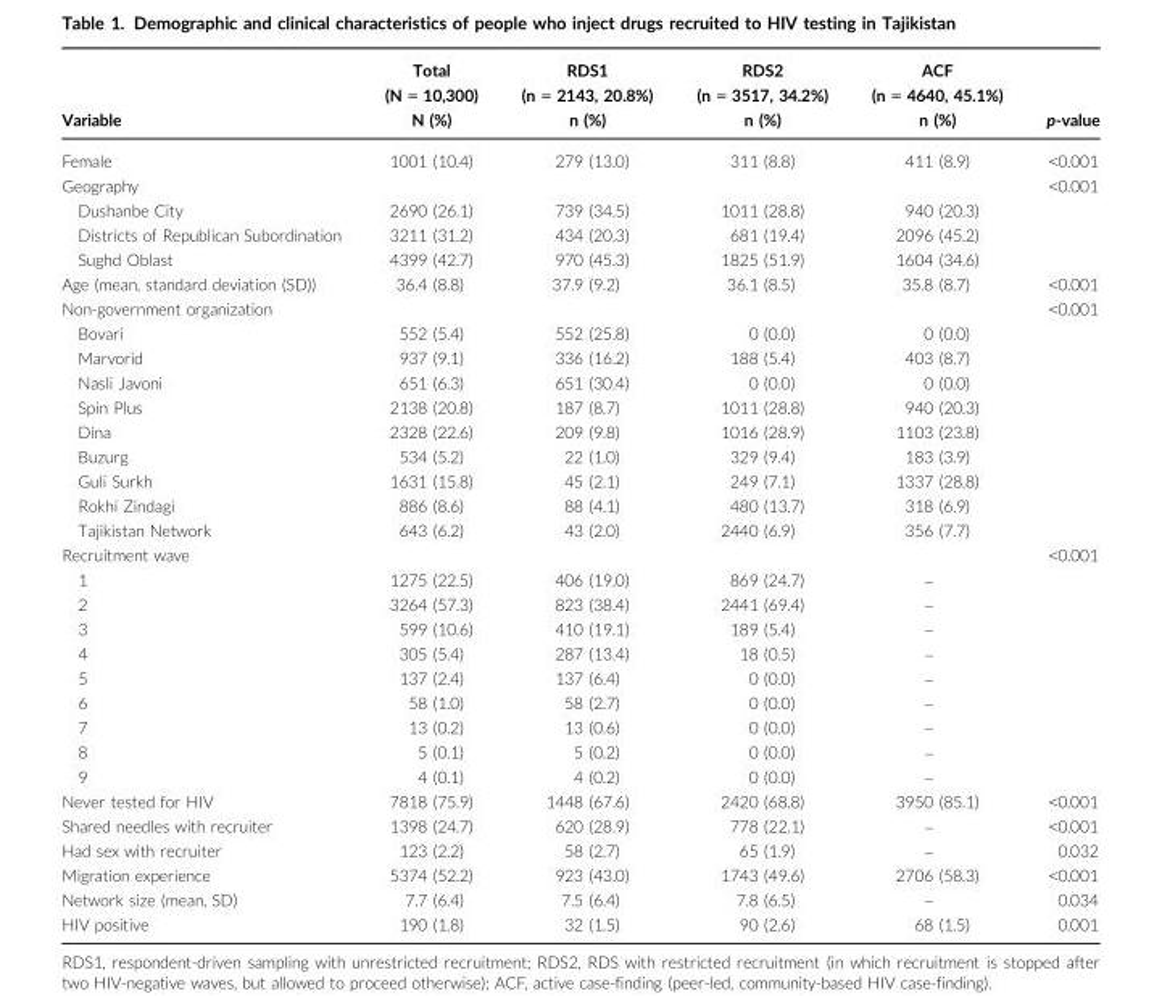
<table><thead><tr><td rowspan="2">Variable</td><td rowspan="2">Total (N = 10,300) N (%)</td><td rowspan="2">RDS1 (n = 2143, 20.8%) n (%)</td><td rowspan="2">RDS2 (n = 3517, 34.2%) n (%)</td><td rowspan="2">ACF (n = 4640, 45.1%) n (%)</td><td rowspan="2">p-value</td></tr><tr></tr></thead><tbody><tr><td>Female</td><td>1001 (10.4)</td><td>279 (13.0)</td><td>311 (8.8)</td><td>411 (8.9)</td><td>&lt;0.001</td></tr><tr><td colspan="5">Geography</td><td rowspan="4">&lt;0.001</td></tr><tr><td>Dushanbe City</td><td>2690 (26.1)</td><td>739 (34.5)</td><td>1011 (28.8)</td><td>940 (20.3)</td></tr><tr><td>Districts of Republican Subordination</td><td>3211 (31.2)</td><td>434 (20.3)</td><td>681 (19.4)</td><td>2096 (45.2)</td></tr><tr><td>Sughd Oblast</td><td>4399 (42.7)</td><td>970 (45.3)</td><td>1825 (51.9)</td><td>1604 (34.6)</td></tr><tr><td>Age (mean, standard deviation (SD))</td><td>36.4 (8.8)</td><td>37.9 (9.2)</td><td>36.1 (8.5)</td><td>35.8 (8.7)</td><td>&lt;0.001</td></tr><tr><td colspan="5">Non-government organization</td><td rowspan="10">&lt;0.001</td></tr><tr><td>Bovari</td><td>552 (5.4)</td><td>552 (25.8)</td><td>0 (0.0)</td><td>0 (0.0)</td></tr><tr><td>Marvorid</td><td>937 (9.1)</td><td>336 (16.2)</td><td>188 (5.4)</td><td>403 (8.7)</td></tr><tr><td>Nasli Javoni</td><td>651 (6.3)</td><td>651 (30.4)</td><td>0 (0.0)</td><td>0 (0.0)</td></tr><tr><td>Spin Plus</td><td>2138 (20.8)</td><td>187 (8.7)</td><td>1011 (28.8)</td><td>940 (20.3)</td></tr><tr><td>Dina</td><td>2328 (22.6)</td><td>209 (9.8)</td><td>1016 (28.9)</td><td>1103 (23.8)</td></tr><tr><td>Buzurg</td><td>534 (5.2)</td><td>22 (1.0)</td><td>329 (9.4)</td><td>183 (3.9)</td></tr><tr><td>Guli Surkh</td><td>1631 (15.8)</td><td>45 (2.1)</td><td>249 (7.1)</td><td>1337 (28.8)</td></tr><tr><td>Rokhi Zindagi</td><td>886 (8.6)</td><td>88 (4.1)</td><td>480 (13.7)</td><td>318 (6.9)</td></tr><tr><td>Tajikistan Network</td><td>643 (6.2)</td><td>43 (2.0)</td><td>2440 (6.9)</td><td>356 (7.7)</td></tr><tr><td colspan="5">Recruitment wave</td><td rowspan="10">&lt;0.001</td></tr><tr><td>1</td><td>1275 (22.5)</td><td>406 (19.0)</td><td>869 (24.7)</td><td>–</td></tr><tr><td>2</td><td>3264 (57.3)</td><td>823 (38.4)</td><td>2441 (69.4)</td><td>–</td></tr><tr><td>3</td><td>599 (10.6)</td><td>410 (19.1)</td><td>189 (5.4)</td><td>–</td></tr><tr><td>4</td><td>305 (5.4)</td><td>287 (13.4)</td><td>18 (0.5)</td><td>–</td></tr><tr><td>5</td><td>137 (2.4)</td><td>137 (6.4)</td><td>0 (0.0)</td><td>–</td></tr><tr><td>6</td><td>58 (1.0)</td><td>58 (2.7)</td><td>0 (0.0)</td><td>–</td></tr><tr><td>7</td><td>13 (0.2)</td><td>13 (0.6)</td><td>0 (0.0)</td><td>–</td></tr><tr><td>8</td><td>5 (0.1)</td><td>5 (0.2)</td><td>0 (0.0)</td><td>–</td></tr><tr><td>9</td><td>4 (0.1)</td><td>4 (0.2)</td><td>0 (0.0)</td><td>–</td></tr><tr><td>Never tested for HIV</td><td>7818 (75.9)</td><td>1448 (67.6)</td><td>2420 (68.8)</td><td>3950 (85.1)</td><td>&lt;0.001</td></tr><tr><td>Shared needles with recruiter</td><td>1398 (24.7)</td><td>620 (28.9)</td><td>778 (22.1)</td><td>–</td><td>&lt;0.001</td></tr><tr><td>Had sex with recruiter</td><td>123 (2.2)</td><td>58 (2.7)</td><td>65 (1.9)</td><td>–</td><td>0.032</td></tr><tr><td>Migration experience</td><td>5374 (52.2)</td><td>923 (43.0)</td><td>1743 (49.6)</td><td>2706 (58.3)</td><td>&lt;0.001</td></tr><tr><td>Network size (mean, SD)</td><td>7.7 (6.4)</td><td>7.5 (6.4)</td><td>7.8 (6.5)</td><td>–</td><td>0.034</td></tr><tr><td>HIV positive</td><td>190 (1.8)</td><td>32 (1.5)</td><td>90 (2.6)</td><td>68 (1.5)</td><td>0.001</td></tr></tbody></table>